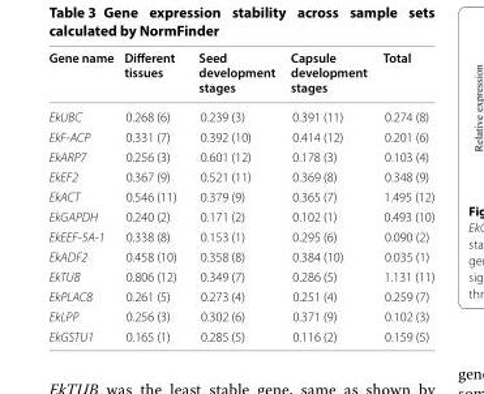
<table><thead><tr><td>Gene name</td><td>Different tissues</td><td>Seed development stages</td><td>Capsule development stages</td><td>Total</td></tr></thead><tbody><tr><td>EkUBC</td><td>0.268 (6)</td><td>0.239 (3)</td><td>0.391 (11)</td><td>0.274 (8)</td></tr><tr><td>EkF‑ACP</td><td>0.331 (7)</td><td>0.392 (10)</td><td>0.414 (12)</td><td>0.201 (6)</td></tr><tr><td>EkARP7</td><td>0.256 (3)</td><td>0.601 (12)</td><td>0.178 (3)</td><td>0.103 (4)</td></tr><tr><td>EkEF2</td><td>0.367 (9)</td><td>0.521 (11)</td><td>0.369 (8)</td><td>0.348 (9)</td></tr><tr><td>EkACT</td><td>0.546 (11)</td><td>0.379 (9)</td><td>0.365 (7)</td><td>1.495 (12)</td></tr><tr><td>EkGAPDH</td><td>0.240 (2)</td><td>0.171 (2)</td><td>0.102 (1)</td><td>0.493 (10)</td></tr><tr><td>EkEEF‑5A‑1</td><td>0.338 (8)</td><td>0.153 (1)</td><td>0.295 (6)</td><td>0.090 (2)</td></tr><tr><td>EkADF2</td><td>0.458 (10)</td><td>0.358 (8)</td><td>0.384 (10)</td><td>0.035 (1)</td></tr><tr><td>EkTUB</td><td>0.806 (12)</td><td>0.349 (7)</td><td>0.286 (5)</td><td>1.131 (11)</td></tr><tr><td>EkPLAC8</td><td>0.261 (5)</td><td>0.273 (4)</td><td>0.251 (4)</td><td>0.259 (7)</td></tr><tr><td>EkLPP</td><td>0.256 (3)</td><td>0.302 (6)</td><td>0.371 (9)</td><td>0.102 (3)</td></tr><tr><td>EkGSTU1</td><td>0.165 (1)</td><td>0.285 (5)</td><td>0.116 (2)</td><td>0.159 (5)</td></tr></tbody></table>